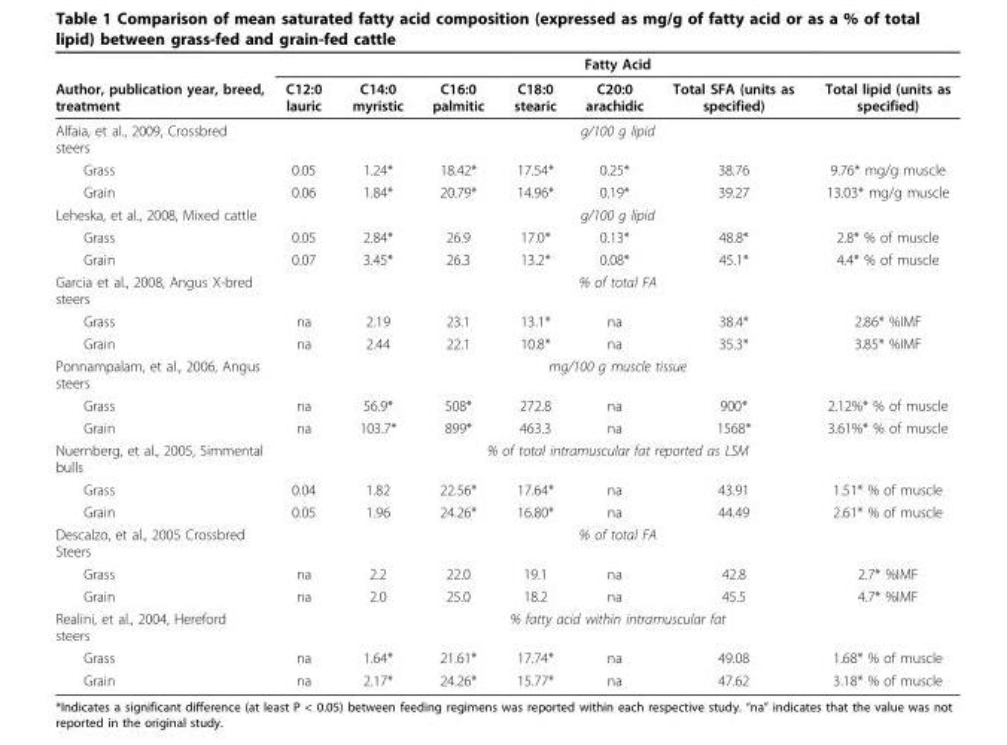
<table><thead><tr><td rowspan="2">Author, publication year, breed, treatment</td><td colspan="7">Fatty Acid</td></tr><tr><td>C12:0 lauric</td><td>C14:0 myristic</td><td>C16:0 palmitic</td><td>C18:0 stearic</td><td>C20:0 arachidic</td><td>Total SFA (units as specified)</td><td>Total lipid (units as specified)</td></tr></thead><tbody><tr><td>Alfaia, et al., 2009, Crossbred steers</td><td colspan="7">g/100 g lipid</td></tr><tr><td>Grass</td><td>0.05</td><td>1.24*</td><td>18.42*</td><td>17.54*</td><td>0.25*</td><td>38.76</td><td>9.76* mg/g muscle</td></tr><tr><td>Grain</td><td>0.06</td><td>1.84*</td><td>20.79*</td><td>14.96*</td><td>0.19*</td><td>39.27</td><td>13.03* mg/g muscle</td></tr><tr><td>Leheska, et al., 2008, Mixed cattle</td><td colspan="7">g/100 g lipid</td></tr><tr><td>Grass</td><td>0.05</td><td>2.84*</td><td>26.9</td><td>17.0*</td><td>0.13*</td><td>48.8*</td><td>2.8* % of muscle</td></tr><tr><td>Grain</td><td>0.07</td><td>3.45*</td><td>26.3</td><td>13.2*</td><td>0.08*</td><td>45.1*</td><td>4.4* % of muscle</td></tr><tr><td>Garcia et al., 2008, Angus X-bred steers</td><td colspan="7">% of total FA</td></tr><tr><td>Grass</td><td>na</td><td>2.19</td><td>23.1</td><td>13.1*</td><td>na</td><td>38.4*</td><td>2.86* %IMF</td></tr><tr><td>Grain</td><td>na</td><td>2.44</td><td>22.1</td><td>10.8*</td><td>na</td><td>35.3*</td><td>3.85* %IMF</td></tr><tr><td>Ponnampalam, et al., 2006, Angus steers</td><td colspan="7">mg/100 g muscle tissue</td></tr><tr><td>Grass</td><td>na</td><td>56.9*</td><td>508*</td><td>272.8</td><td>na</td><td>900*</td><td>2.12%* % of muscle</td></tr><tr><td>Grain</td><td>na</td><td>103.7*</td><td>899*</td><td>463.3</td><td>na</td><td>1568*</td><td>3.61%* % of muscle</td></tr><tr><td>Nuernberg, et al., 2005, Simmental bulls</td><td colspan="7">% of total intramuscular fat reported as LSM</td></tr><tr><td>Grass</td><td>0.04</td><td>1.82</td><td>22.56*</td><td>17.64*</td><td>na</td><td>43.91</td><td>1.51* % of muscle</td></tr><tr><td>Grain</td><td>0.05</td><td>1.96</td><td>24.26*</td><td>16.80*</td><td>na</td><td>44.49</td><td>2.61* % of muscle</td></tr><tr><td>Descalzo, et al., 2005 Crossbred Steers</td><td colspan="7">% of total FA</td></tr><tr><td>Grass</td><td>na</td><td>2.2</td><td>22.0</td><td>19.1</td><td>na</td><td>42.8</td><td>2.7* %IMF</td></tr><tr><td>Grain</td><td>na</td><td>2.0</td><td>25.0</td><td>18.2</td><td>na</td><td>45.5</td><td>4.7* %IMF</td></tr><tr><td>Realini, et al., 2004, Hereford steers</td><td colspan="7">% fatty acid within intramuscular fat</td></tr><tr><td>Grass</td><td>na</td><td>1.64*</td><td>21.61*</td><td>17.74*</td><td>na</td><td>49.08</td><td>1.68* % of muscle</td></tr><tr><td>Grain</td><td>na</td><td>2.17*</td><td>24.26*</td><td>15.77*</td><td>na</td><td>47.62</td><td>3.18* % of muscle</td></tr></tbody></table>